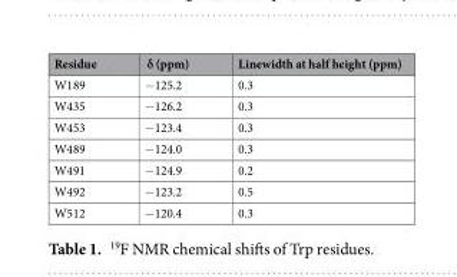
<table><thead><tr><td>Residue</td><td>δ (ppm)</td><td>Linewidth at half height (ppm)</td></tr></thead><tbody><tr><td>W189</td><td>−125.2</td><td>0.3</td></tr><tr><td>W435</td><td>−126.2</td><td>0.3</td></tr><tr><td>W453</td><td>−123.4</td><td>0.3</td></tr><tr><td>W489</td><td>−124.0</td><td>0.3</td></tr><tr><td>W491</td><td>−124.9</td><td>0.2</td></tr><tr><td>W492</td><td>−123.2</td><td>0.5</td></tr><tr><td>W512</td><td>−120.4</td><td>0.3</td></tr></tbody></table>